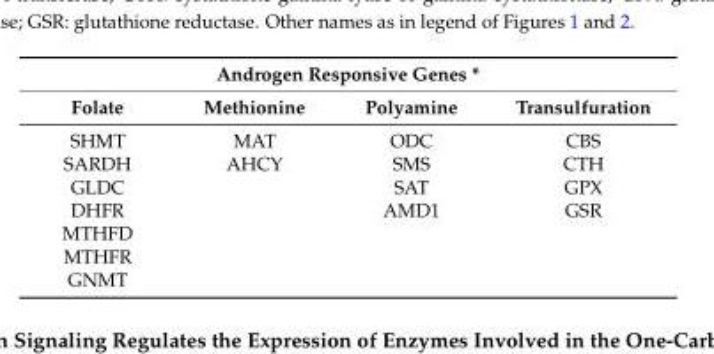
<table><thead><tr><td colspan="4">Androgen Responsive Genes *</td></tr><tr><td>Folate</td><td>Methionine</td><td>Polyamine</td><td>Transulfuration</td></tr></thead><tbody><tr><td>SHMT</td><td>MAT</td><td>ODC</td><td>CBS</td></tr><tr><td>SARDH</td><td>AHCY</td><td>SMS</td><td>CTH</td></tr><tr><td>GLDC</td><td></td><td>SAT</td><td>GPX</td></tr><tr><td>DHFR</td><td></td><td>AMD1</td><td>GSR</td></tr><tr><td colspan="4">MTHFD</td></tr><tr><td colspan="4">MTHFR</td></tr><tr><td>GNMT</td><td></td><td></td><td></td></tr></tbody></table>